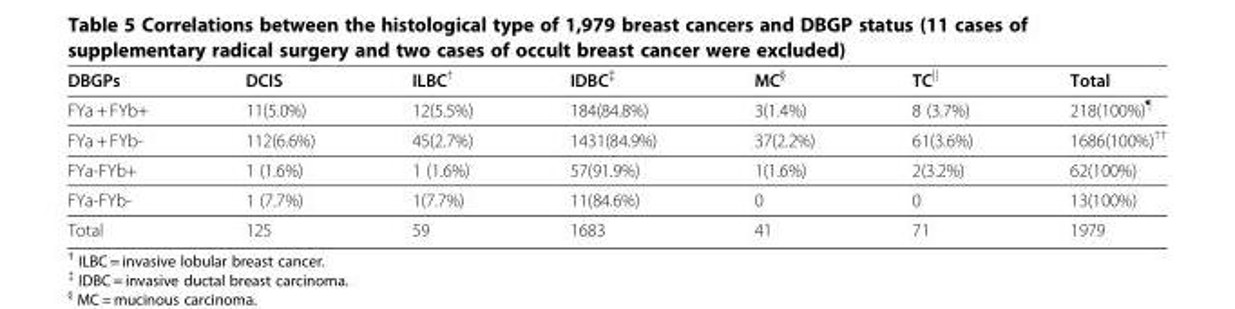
<table><thead><tr><td>DBGPs</td><td>DCIS</td><td>ILBC<sup>†</sup></td><td>IDBC<sup>‡</sup></td><td>MC<sup>§</sup></td><td>TC<sup>||</sup></td><td>Total</td></tr></thead><tbody><tr><td>FYa + FYb+</td><td>11(5.0%)</td><td>12(5.5%)</td><td>184(84.8%)</td><td>3(1.4%)</td><td>8 (3.7%)</td><td>218(100%)<sup>¶</sup></td></tr><tr><td>FYa + FYb-</td><td>112(6.6%)</td><td>45(2.7%)</td><td>1431(84.9%)</td><td>37(2.2%)</td><td>61(3.6%)</td><td>1686(100%)<sup>††</sup></td></tr><tr><td>FYa-FYb+</td><td>1 (1.6%)</td><td>1 (1.6%)</td><td>57(91.9%)</td><td>1(1.6%)</td><td>2(3.2%)</td><td>62(100%)</td></tr><tr><td>FYa-FYb-</td><td>1 (7.7%)</td><td>1(7.7%)</td><td>11(84.6%)</td><td>0</td><td>0</td><td>13(100%)</td></tr><tr><td>Total</td><td>125</td><td>59</td><td>1683</td><td>41</td><td>71</td><td>1979</td></tr></tbody></table>